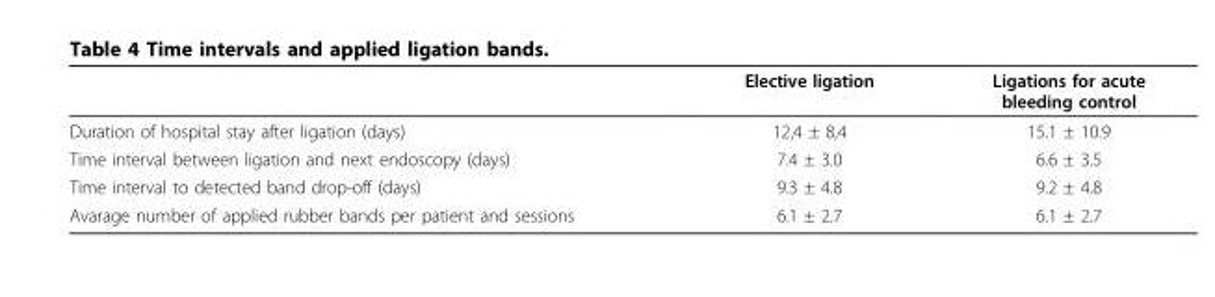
<table><thead><tr><td></td><td>Elective ligation</td><td>Ligations for acute bleeding control</td></tr></thead><tbody><tr><td>Duration of hospital stay after ligation (days)</td><td>12,4 ± 8,4</td><td>15.1 ± 10.9</td></tr><tr><td>Time interval between ligation and next endoscopy (days)</td><td>7.4 ± 3.0</td><td>6.6 ± 3.5</td></tr><tr><td>Time interval to detected band drop-off (days)</td><td>9.3 ± 4.8</td><td>9.2 ± 4.8</td></tr><tr><td>Avarage number of applied rubber bands per patient and sessions</td><td>6.1 ± 2.7</td><td>6.1 ± 2.7</td></tr></tbody></table>